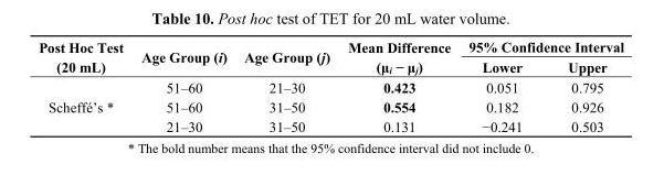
<table><thead><tr><td rowspan="2">Post Hoc Test (20 mL)</td><td rowspan="2">Age Group (i)</td><td rowspan="2">Age Group (j)</td><td rowspan="2">Mean Difference (μ<sub>i</sub> − μ<sub>j</sub>)</td><td colspan="2">95% Confidence Interval</td></tr><tr><td>Lower</td><td>Upper</td></tr></thead><tbody><tr><td rowspan="3">Scheffé’s *</td><td>51–60</td><td>21–30</td><td>0.423</td><td>0.051</td><td>0.795</td></tr><tr><td>51–60</td><td>31–50</td><td>0.554</td><td>0.182</td><td>0.926</td></tr><tr><td>21–30</td><td>31–50</td><td>0.131</td><td>−0.241</td><td>0.503</td></tr></tbody></table>